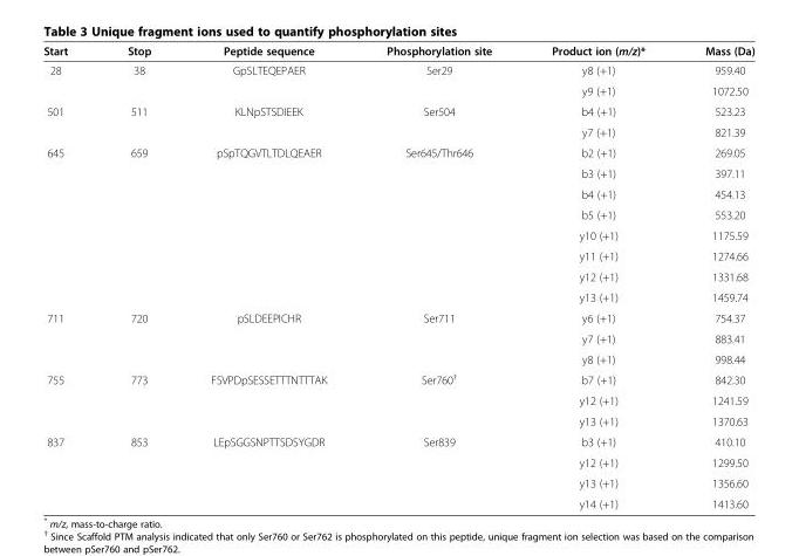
<table><thead><tr><td>Start</td><td>Stop</td><td>Peptide sequence</td><td>Phosphorylation site</td><td>Product ion (m/z)*</td><td>Mass (Da)</td></tr></thead><tbody><tr><td rowspan="2">28</td><td>38</td><td>GpSLTEQEPAER</td><td>Ser29</td><td>y8 (+1)</td><td>959.40</td></tr><tr><td></td><td></td><td></td><td>y9 (+1)</td><td>1072.50</td></tr><tr><td rowspan="2">501</td><td>511</td><td>KLNpSTSDIEEK</td><td>Ser504</td><td>b4 (+1)</td><td>523.23</td></tr><tr><td></td><td></td><td></td><td>y7 (+1)</td><td>821.39</td></tr><tr><td rowspan="8">645</td><td>659</td><td>pSpTQGVTLTDLQEAER</td><td>Ser645/Thr646</td><td>b2 (+1)</td><td>269.05</td></tr><tr><td></td><td></td><td></td><td>b3 (+1)</td><td>397.11</td></tr><tr><td></td><td></td><td></td><td>b4 (+1)</td><td>454.13</td></tr><tr><td></td><td></td><td></td><td>b5 (+1)</td><td>553.20</td></tr><tr><td></td><td></td><td></td><td>y10 (+1)</td><td>1175.59</td></tr><tr><td></td><td></td><td></td><td>y11 (+1)</td><td>1274.66</td></tr><tr><td></td><td></td><td></td><td>y12 (+1)</td><td>1331.68</td></tr><tr><td></td><td></td><td></td><td>y13 (+1)</td><td>1459.74</td></tr><tr><td rowspan="3">711</td><td>720</td><td>pSLDEEPICHR</td><td>Ser711</td><td>y6 (+1)</td><td>754.37</td></tr><tr><td></td><td></td><td></td><td>y7 (+1)</td><td>883.41</td></tr><tr><td></td><td></td><td></td><td>y8 (+1)</td><td>998.44</td></tr><tr><td rowspan="3">755</td><td>773</td><td>FSVPDpSESSETTTNTTTAK</td><td>Ser760<sup>†</sup></td><td>b7 (+1)</td><td>842.30</td></tr><tr><td></td><td></td><td></td><td>y12 (+1)</td><td>1241.59</td></tr><tr><td></td><td></td><td></td><td>y13 (+1)</td><td>1370.63</td></tr><tr><td rowspan="4">837</td><td>853</td><td>LEpSGGSNPTTSDSYGDR</td><td>Ser839</td><td>b3 (+1)</td><td>410.10</td></tr><tr><td></td><td></td><td></td><td>y12 (+1)</td><td>1299.50</td></tr><tr><td></td><td></td><td></td><td>y13 (+1)</td><td>1356.60</td></tr><tr><td></td><td></td><td></td><td>y14 (+1)</td><td>1413.60</td></tr></tbody></table>